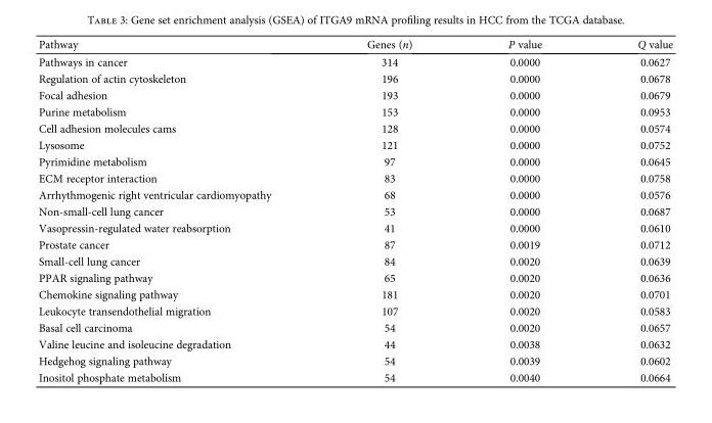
<table><thead><tr><td>Pathway</td><td>Genes (n)</td><td>P value</td><td>Q value</td></tr></thead><tbody><tr><td>Pathways in cancer</td><td>314</td><td>0.0000</td><td>0.0627</td></tr><tr><td>Regulation of actin cytoskeleton</td><td>196</td><td>0.0000</td><td>0.0678</td></tr><tr><td>Focal adhesion</td><td>193</td><td>0.0000</td><td>0.0679</td></tr><tr><td>Purine metabolism</td><td>153</td><td>0.0000</td><td>0.0953</td></tr><tr><td>Cell adhesion molecules cams</td><td>128</td><td>0.0000</td><td>0.0574</td></tr><tr><td>Lysosome</td><td>121</td><td>0.0000</td><td>0.0752</td></tr><tr><td>Pyrimidine metabolism</td><td>97</td><td>0.0000</td><td>0.0645</td></tr><tr><td>ECM receptor interaction</td><td>83</td><td>0.0000</td><td>0.0758</td></tr><tr><td>Arrhythmogenic right ventricular cardiomyopathy</td><td>68</td><td>0.0000</td><td>0.0576</td></tr><tr><td>Non-small-cell lung cancer</td><td>53</td><td>0.0000</td><td>0.0687</td></tr><tr><td>Vasopressin-regulated water reabsorption</td><td>41</td><td>0.0000</td><td>0.0610</td></tr><tr><td>Prostate cancer</td><td>87</td><td>0.0019</td><td>0.0712</td></tr><tr><td>Small-cell lung cancer</td><td>84</td><td>0.0020</td><td>0.0639</td></tr><tr><td>PPAR signaling pathway</td><td>65</td><td>0.0020</td><td>0.0636</td></tr><tr><td>Chemokine signaling pathway</td><td>181</td><td>0.0020</td><td>0.0701</td></tr><tr><td>Leukocyte transendothelial migration</td><td>107</td><td>0.0020</td><td>0.0583</td></tr><tr><td>Basal cell carcinoma</td><td>54</td><td>0.0020</td><td>0.0657</td></tr><tr><td>Valine leucine and isoleucine degradation</td><td>44</td><td>0.0038</td><td>0.0632</td></tr><tr><td>Hedgehog signaling pathway</td><td>54</td><td>0.0039</td><td>0.0602</td></tr><tr><td>Inositol phosphate metabolism</td><td>54</td><td>0.0040</td><td>0.0664</td></tr></tbody></table>